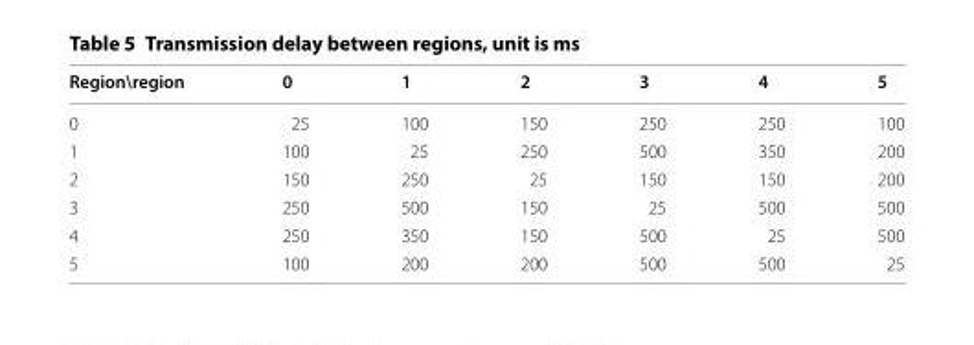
<table><thead><tr><td>Region\region</td><td>0</td><td>1</td><td>2</td><td>3</td><td>4</td><td>5</td></tr></thead><tbody><tr><td>0</td><td>25</td><td>100</td><td>150</td><td>250</td><td>250</td><td>100</td></tr><tr><td>1</td><td>100</td><td>25</td><td>250</td><td>500</td><td>350</td><td>200</td></tr><tr><td>2</td><td>150</td><td>250</td><td>25</td><td>150</td><td>150</td><td>200</td></tr><tr><td>3</td><td>250</td><td>500</td><td>150</td><td>25</td><td>500</td><td>500</td></tr><tr><td>4</td><td>250</td><td>350</td><td>150</td><td>500</td><td>25</td><td>500</td></tr><tr><td>5</td><td>100</td><td>200</td><td>200</td><td>500</td><td>500</td><td>25</td></tr></tbody></table>